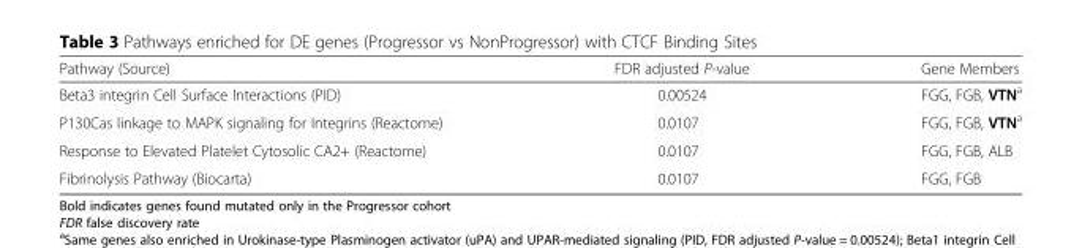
<table><thead><tr><td>Pathway (Source)</td><td>FDR adjusted P-value</td><td>Gene Members</td></tr></thead><tbody><tr><td>Beta3 integrin Cell Surface Interactions (PID)</td><td>0.00524</td><td>FGG, FGB, VTN<sup>a</sup></td></tr><tr><td>P130Cas linkage to MAPK signaling for Integrins (Reactome)</td><td>0.0107</td><td>FGG, FGB, VTN<sup>a</sup></td></tr><tr><td>Response to Elevated Platelet Cytosolic CA2+ (Reactome)</td><td>0.0107</td><td>FGG, FGB, ALB</td></tr><tr><td>Fibrinolysis Pathway (Biocarta)</td><td>0.0107</td><td>FGG, FGB</td></tr></tbody></table>